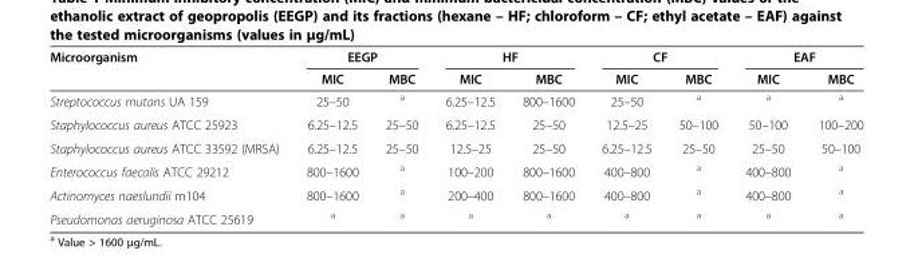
<table><thead><tr><td rowspan="2">Microorganism</td><td colspan="2">EEGP</td><td colspan="2">HF</td><td colspan="2">CF</td><td colspan="2">EAF</td></tr><tr><td>MIC</td><td>MBC</td><td>MIC</td><td>MBC</td><td>MIC</td><td>MBC</td><td>MIC</td><td>MBC</td></tr></thead><tbody><tr><td>Streptococcus mutans UA 159</td><td>25–50</td><td><sup>a</sup></td><td>6.25–12.5</td><td>800–1600</td><td>25–50</td><td><sup>a</sup></td><td><sup>a</sup></td><td><sup>a</sup></td></tr><tr><td>Staphylococcus aureus ATCC 25923</td><td>6.25–12.5</td><td>25–50</td><td>6.25–12.5</td><td>25–50</td><td>12.5–25</td><td>50–100</td><td>50–100</td><td>100–200</td></tr><tr><td>Staphylococcus aureus ATCC 33592 (MRSA)</td><td>6.25–12.5</td><td>25–50</td><td>12.5–25</td><td>25–50</td><td>6.25–12.5</td><td>25–50</td><td>25–50</td><td>50–100</td></tr><tr><td>Enterococcus faecalis ATCC 29212</td><td>800–1600</td><td><sup>a</sup></td><td>100–200</td><td>800–1600</td><td>400–800</td><td><sup>a</sup></td><td>400–800</td><td><sup>a</sup></td></tr><tr><td>Actinomyces naeslundii m104</td><td>800–1600</td><td><sup>a</sup></td><td>200–400</td><td>800–1600</td><td>400–800</td><td><sup>a</sup></td><td>400–800</td><td><sup>a</sup></td></tr><tr><td>Pseudomonas aeruginosa ATCC 25619</td><td><sup>a</sup></td><td><sup>a</sup></td><td><sup>a</sup></td><td><sup>a</sup></td><td><sup>a</sup></td><td><sup>a</sup></td><td><sup>a</sup></td><td><sup>a</sup></td></tr></tbody></table>